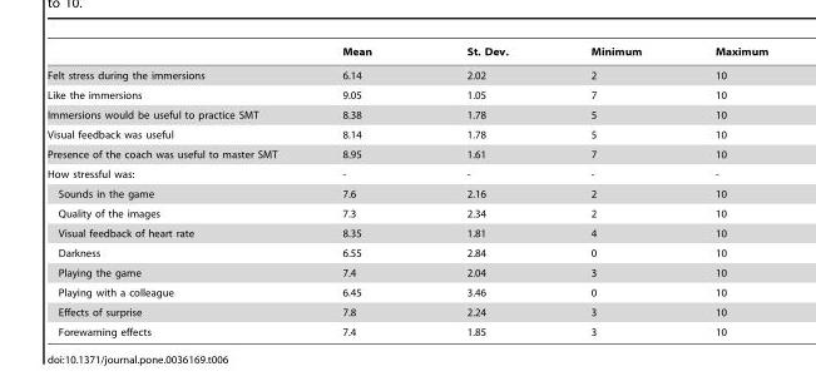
<table><thead><tr><td></td><td>Mean</td><td>St. Dev.</td><td>Minimum</td><td>Maximum</td></tr></thead><tbody><tr><td>Felt stress during the immersions</td><td>6.14</td><td>2.02</td><td>2</td><td>10</td></tr><tr><td>Like the immersions</td><td>9.05</td><td>1.05</td><td>7</td><td>10</td></tr><tr><td>Immersions would be useful to practice SMT</td><td>8.38</td><td>1.78</td><td>5</td><td>10</td></tr><tr><td>Visual feedback was useful</td><td>8.14</td><td>1.78</td><td>5</td><td>10</td></tr><tr><td>Presence of the coach was useful to master SMT</td><td>8.95</td><td>1.61</td><td>7</td><td>10</td></tr><tr><td>How stressful was:</td><td>-</td><td>-</td><td>-</td><td>-</td></tr><tr><td>Sounds in the game</td><td>7.6</td><td>2.16</td><td>2</td><td>10</td></tr><tr><td>Quality of the images</td><td>7.3</td><td>2.34</td><td>2</td><td>10</td></tr><tr><td>Visual feedback of heart rate</td><td>8.35</td><td>1.81</td><td>4</td><td>10</td></tr><tr><td>Darkness</td><td>6.55</td><td>2.84</td><td>0</td><td>10</td></tr><tr><td>Playing the game</td><td>7.4</td><td>2.04</td><td>3</td><td>10</td></tr><tr><td>Playing with a colleague</td><td>6.45</td><td>3.46</td><td>0</td><td>10</td></tr><tr><td>Effects of surprise</td><td>7.8</td><td>2.24</td><td>3</td><td>10</td></tr><tr><td>Forewarning effects</td><td>7.4</td><td>1.85</td><td>3</td><td>10</td></tr></tbody></table>